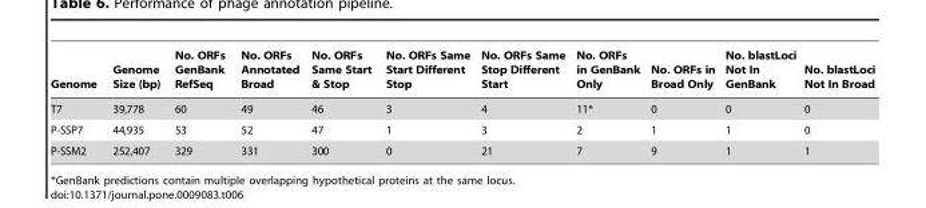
<table><thead><tr><td>Genome</td><td>Genome Size (bp)</td><td>No. ORFs GenBank RefSeq</td><td>No. ORFs Annotated Broad</td><td>No. ORFs Same Start &amp; Stop</td><td>No. ORFs Same Start Different Stop</td><td>No. ORFs Same Stop Different Start</td><td>No. ORFs in GenBank Only</td><td>No. ORFs in Broad Only</td><td>No. blastLoci Not In GenBank</td><td>No. blastLoci Not In Broad</td></tr></thead><tbody><tr><td>T7</td><td>39,778</td><td>60</td><td>49</td><td>46</td><td>3</td><td>4</td><td>11*</td><td>0</td><td>0</td><td>0</td></tr><tr><td>P-SSP7</td><td>44,935</td><td>53</td><td>52</td><td>47</td><td>1</td><td>3</td><td>2</td><td>1</td><td>1</td><td>0</td></tr><tr><td>P-SSM2</td><td>252,407</td><td>329</td><td>331</td><td>300</td><td>0</td><td>21</td><td>7</td><td>9</td><td>1</td><td>1</td></tr></tbody></table>